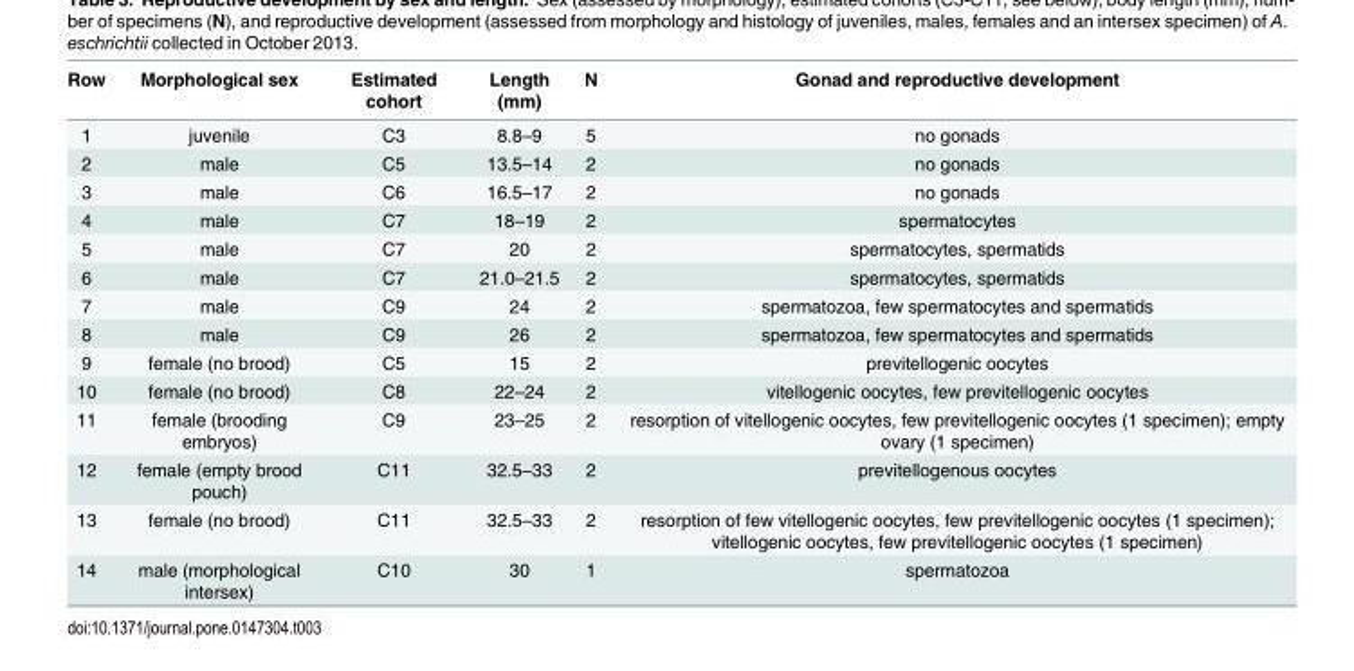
<table><thead><tr><td>Row</td><td>Morphological sex</td><td>Estimated cohort</td><td>Length (mm)</td><td>N</td><td>Gonad and reproductive development</td></tr></thead><tbody><tr><td>1</td><td>juvenile</td><td>C3</td><td>8.8–9</td><td>5</td><td>no gonads</td></tr><tr><td>2</td><td>male</td><td>C5</td><td>13.5–14</td><td>2</td><td>no gonads</td></tr><tr><td>3</td><td>male</td><td>C6</td><td>16.5–17</td><td>2</td><td>no gonads</td></tr><tr><td>4</td><td>male</td><td>C7</td><td>18–19</td><td>2</td><td>spermatocytes</td></tr><tr><td>5</td><td>male</td><td>C7</td><td>20</td><td>2</td><td>spermatocytes, spermatids</td></tr><tr><td>6</td><td>male</td><td>C7</td><td>21.0–21.5</td><td>2</td><td>spermatocytes, spermatids</td></tr><tr><td>7</td><td>male</td><td>C9</td><td>24</td><td>2</td><td>spermatozoa, few spermatocytes and spermatids</td></tr><tr><td>8</td><td>male</td><td>C9</td><td>26</td><td>2</td><td>spermatozoa, few spermatocytes and spermatids</td></tr><tr><td>9</td><td>female (no brood)</td><td>C5</td><td>15</td><td>2</td><td>previtellogenic oocytes</td></tr><tr><td>10</td><td>female (no brood)</td><td>C8</td><td>22–24</td><td>2</td><td>vitellogenic oocytes, few previtellogenic oocytes</td></tr><tr><td>11</td><td>female (brooding embryos)</td><td>C9</td><td>23–25</td><td>2</td><td>resorption of vitellogenic oocytes, few previtellogenic oocytes (1 specimen); empty ovary (1 specimen)</td></tr><tr><td>12</td><td>female (empty brood pouch)</td><td>C11</td><td>32.5–33</td><td>2</td><td>previtellogenous oocytes</td></tr><tr><td>13</td><td>female (no brood)</td><td>C11</td><td>32.5–33</td><td>2</td><td>resorption of few vitellogenic oocytes, few previtellogenic oocytes (1 specimen); vitellogenic oocytes, few previtellogenic oocytes (1 specimen)</td></tr><tr><td>14</td><td>male (morphological intersex)</td><td>C10</td><td>30</td><td>1</td><td>spermatozoa</td></tr></tbody></table>